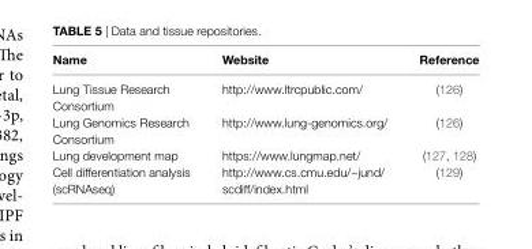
<table><thead><tr><td>Name</td><td>website</td><td>Reference</td></tr></thead><tbody><tr><td>Lung Tissue Research Consortium</td><td>http://www.ltrcpublic.com/</td><td>(126)</td></tr><tr><td>Lung Genomics Research Consortium</td><td>http://www.lung-genomics.org/</td><td>(126)</td></tr><tr><td>Lung development map</td><td>https://www.lungmap.net/</td><td>(127, 128)</td></tr><tr><td>Cell differentiation analysis (scRNAseq)</td><td>http://www.cs.cmu.edu/~jund/ scdiff/index.html</td><td>(129)</td></tr></tbody></table>